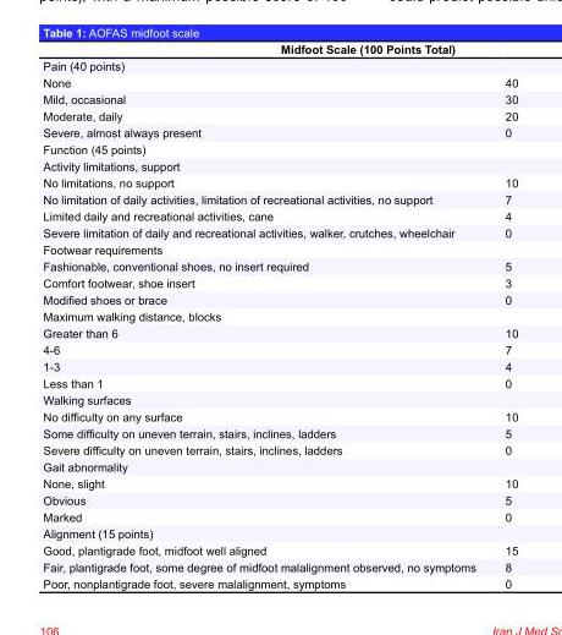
<table><thead><tr><td rowspan="2" colspan="2">Midfoot Scale (100 Points Total) Pain (40 points)</td></tr><tr></tr><tr><td>None</td><td>40</td></tr></thead><tbody><tr><td>Mild, occasional</td><td>30</td></tr><tr><td>Moderate, daily</td><td>20</td></tr><tr><td>Severe, almost always present</td><td>0</td></tr><tr><td colspan="2">Function (45 points)</td></tr><tr><td colspan="2">Activity limitations, support</td></tr><tr><td>No limitations, no support</td><td>10</td></tr><tr><td>No limitation of daily activities, limitation of recreational activities, no support</td><td>7</td></tr><tr><td>Limited daily and recreational activities, cane</td><td>4</td></tr><tr><td>Severe limitation of daily and recreational activities, walker, crutches, wheelchair</td><td>0</td></tr><tr><td colspan="2">Footwear requirements</td></tr><tr><td>Fashionable, conventional shoes, no insert required</td><td>5</td></tr><tr><td>Comfort footwear, shoe insert</td><td>3</td></tr><tr><td>Modified shoes or brace</td><td>0</td></tr><tr><td colspan="2">Maximum walking distance, blocks</td></tr><tr><td>Greater than 6</td><td>10</td></tr><tr><td>4-6</td><td>7</td></tr><tr><td>1-3</td><td>4</td></tr><tr><td>Less than 1</td><td>0</td></tr><tr><td colspan="2">Walking surfaces</td></tr><tr><td>No difficulty on any surface</td><td>10</td></tr><tr><td>Some difficulty on uneven terrain, stairs, inclines, ladders</td><td>5</td></tr><tr><td>Severe difficulty on uneven terrain, stairs, inclines, ladders</td><td>0</td></tr><tr><td colspan="2">Gait abnormality</td></tr><tr><td>None, slight</td><td>10</td></tr><tr><td>Obvious</td><td>5</td></tr><tr><td>Marked</td><td>0</td></tr><tr><td colspan="2">Alignment (15 points)</td></tr><tr><td>Good, plantigrade foot, midfoot well aligned</td><td>15</td></tr><tr><td>Fair, plantigrade foot, some degree of midfoot malalignment observed, no symptoms</td><td>8</td></tr><tr><td>Poor, nonplantigrade foot, severe malalignment, symptoms</td><td>0</td></tr></tbody></table>